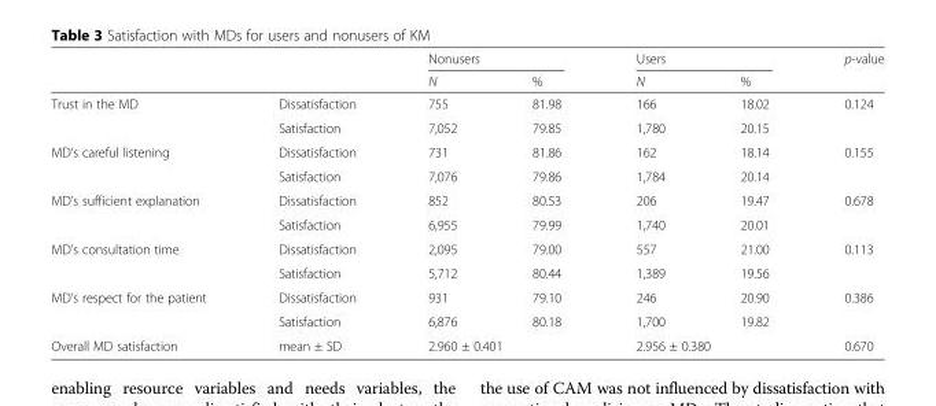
<table><thead><tr><td rowspan="2"></td><td rowspan="2"></td><td colspan="2">Nonusers</td><td colspan="2">Users</td><td rowspan="2">p-value</td></tr><tr><td>N</td><td>%</td><td>N</td><td>%</td></tr></thead><tbody><tr><td rowspan="2">Trust in the MD</td><td>Dissatisfaction</td><td>755</td><td>81.98</td><td>166</td><td>18.02</td><td>0.124</td></tr><tr><td>Satisfaction</td><td>7,052</td><td>79.85</td><td>1,780</td><td>20.15</td><td></td></tr><tr><td rowspan="2">MD’s careful listening</td><td>Dissatisfaction</td><td>731</td><td>81.86</td><td>162</td><td>18.14</td><td>0.155</td></tr><tr><td>Satisfaction</td><td>7,076</td><td>79.86</td><td>1,784</td><td>20.14</td><td></td></tr><tr><td rowspan="2">MD’s sufficient explanation</td><td>Dissatisfaction</td><td>852</td><td>80.53</td><td>206</td><td>19.47</td><td>0.678</td></tr><tr><td>Satisfaction</td><td>6,955</td><td>79.99</td><td>1,740</td><td>20.01</td><td></td></tr><tr><td rowspan="2">MD’s consultation time</td><td>Dissatisfaction</td><td>2,095</td><td>79.00</td><td>557</td><td>21.00</td><td>0.113</td></tr><tr><td>Satisfaction</td><td>5,712</td><td>80.44</td><td>1,389</td><td>19.56</td><td></td></tr><tr><td rowspan="2">MD’s respect for the patient</td><td>Dissatisfaction</td><td>931</td><td>79.10</td><td>246</td><td>20.90</td><td>0.386</td></tr><tr><td>Satisfaction</td><td>6,876</td><td>80.18</td><td>1,700</td><td>19.82</td><td></td></tr><tr><td>Overall MD satisfaction</td><td>mean ± SD</td><td colspan="2">2.960 ± 0.401</td><td colspan="2">2.956 ± 0.380</td><td>0.670</td></tr></tbody></table>